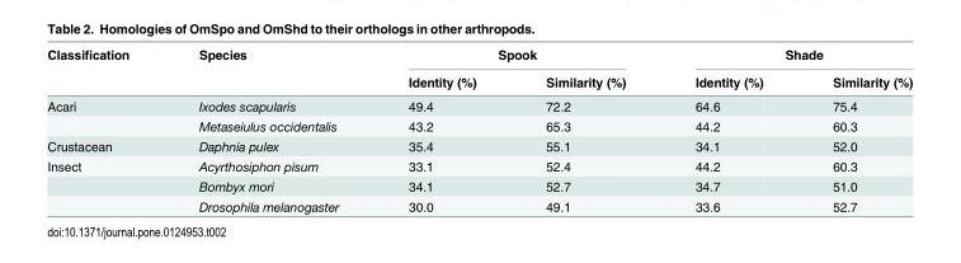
<table><thead><tr><td rowspan="2">Classification</td><td rowspan="2">Species</td><td colspan="2">Spook</td><td colspan="2">Shade</td></tr><tr><td>Identity (%)</td><td>Similarity (%)</td><td>Identity (%)</td><td>Similarity (%)</td></tr></thead><tbody><tr><td rowspan="2">Acari</td><td>Ixodes scapularis</td><td>49.4</td><td>72.2</td><td>64.6</td><td>75.4</td></tr><tr><td>Metaseiulus occidentalis</td><td>43.2</td><td>65.3</td><td>44.2</td><td>60.3</td></tr><tr><td>Crustacean</td><td>Daphnia pulex</td><td>35.4</td><td>55.1</td><td>34.1</td><td>52.0</td></tr><tr><td rowspan="3">Insect</td><td>Acyrthosiphon pisum</td><td>33.1</td><td>52.4</td><td>44.2</td><td>60.3</td></tr><tr><td>Bombyx mori</td><td>34.1</td><td>52.7</td><td>34.7</td><td>51.0</td></tr><tr><td>Drosophila melanogaster</td><td>30.0</td><td>49.1</td><td>33.6</td><td>52.7</td></tr></tbody></table>